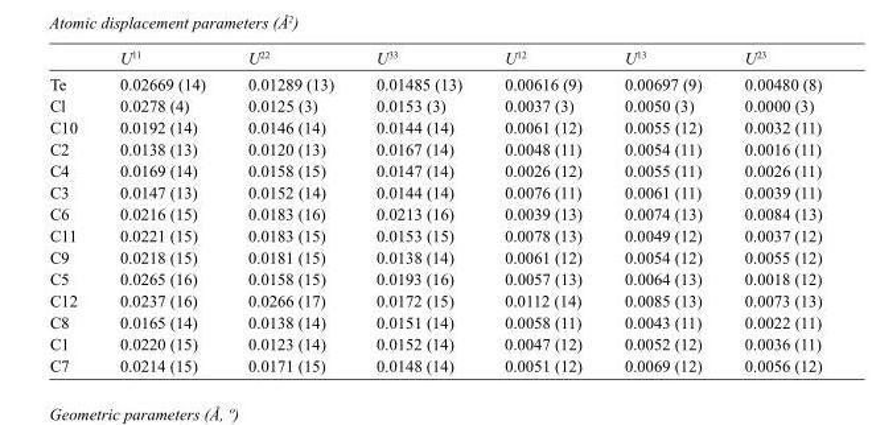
<table><thead><tr><td></td><td>U<sup>11</sup></td><td>U<sup>22</sup></td><td>U<sup>33</sup></td><td>U<sup>12</sup></td><td>U<sup>13</sup></td><td>U<sup>23</sup></td></tr></thead><tbody><tr><td>Te</td><td>0.02669 (14)</td><td>0.01289 (13)</td><td>0.01485 (13)</td><td>0.00616 (9)</td><td>0.00697 (9)</td><td>0.00480 (8)</td></tr><tr><td>Cl</td><td>0.0278 (4)</td><td>0.0125 (3)</td><td>0.0153 (3)</td><td>0.0037 (3)</td><td>0.0050 (3)</td><td>0.0000 (3)</td></tr><tr><td>C10</td><td>0.0192 (14)</td><td>0.0146 (14)</td><td>0.0144 (14)</td><td>0.0061 (12)</td><td>0.0055 (12)</td><td>0.0032 (11)</td></tr><tr><td>C2</td><td>0.0138 (13)</td><td>0.0120 (13)</td><td>0.0167 (14)</td><td>0.0048 (11)</td><td>0.0054 (11)</td><td>0.0016 (11)</td></tr><tr><td>C4</td><td>0.0169 (14)</td><td>0.0158 (15)</td><td>0.0147 (14)</td><td>0.0026 (12)</td><td>0.0055 (11)</td><td>0.0026 (11)</td></tr><tr><td>C3</td><td>0.0147 (13)</td><td>0.0152 (14)</td><td>0.0144 (14)</td><td>0.0076 (11)</td><td>0.0061 (11)</td><td>0.0039 (11)</td></tr><tr><td>C6</td><td>0.0216 (15)</td><td>0.0183 (16)</td><td>0.0213 (16)</td><td>0.0039 (13)</td><td>0.0074 (13)</td><td>0.0084 (13)</td></tr><tr><td>C11</td><td>0.0221 (15)</td><td>0.0183 (15)</td><td>0.0153 (15)</td><td>0.0078 (13)</td><td>0.0049 (12)</td><td>0.0037 (12)</td></tr><tr><td>C9</td><td>0.0218 (15)</td><td>0.0181 (15)</td><td>0.0138 (14)</td><td>0.0061 (12)</td><td>0.0054 (12)</td><td>0.0055 (12)</td></tr><tr><td>C5</td><td>0.0265 (16)</td><td>0.0158 (15)</td><td>0.0193 (16)</td><td>0.0057 (13)</td><td>0.0064 (13)</td><td>0.0018 (12)</td></tr><tr><td>C12</td><td>0.0237 (16)</td><td>0.0266 (17)</td><td>0.0172 (15)</td><td>0.0112 (14)</td><td>0.0085 (13)</td><td>0.0073 (13)</td></tr><tr><td>C8</td><td>0.0165 (14)</td><td>0.0138 (14)</td><td>0.0151 (14)</td><td>0.0058 (11)</td><td>0.0043 (11)</td><td>0.0022 (11)</td></tr><tr><td>C1</td><td>0.0220 (15)</td><td>0.0123 (14)</td><td>0.0152 (14)</td><td>0.0047 (12)</td><td>0.0052 (12)</td><td>0.0036 (11)</td></tr><tr><td>C7</td><td>0.0214 (15)</td><td>0.0171 (15)</td><td>0.0148 (14)</td><td>0.0051 (12)</td><td>0.0069 (12)</td><td>0.0056 (12)</td></tr></tbody></table>